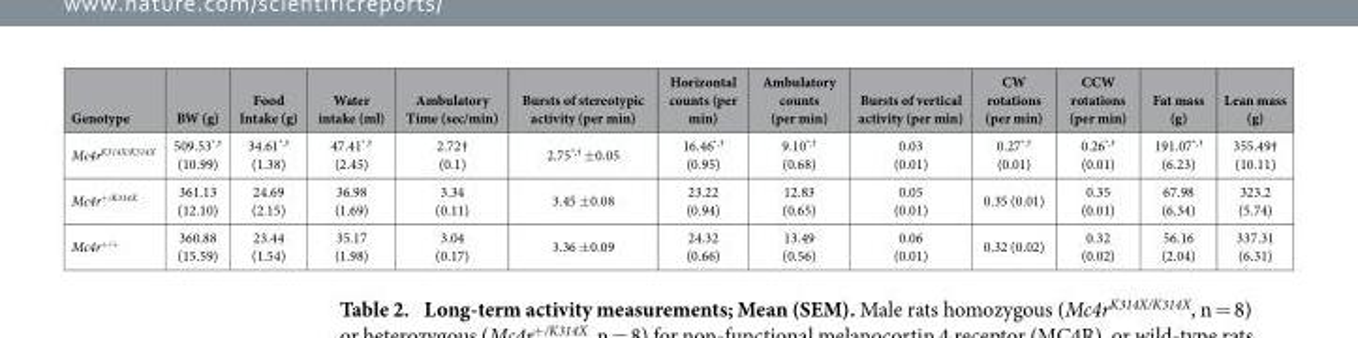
<table><thead><tr><td>Genotype</td><td>BW (g)</td><td>Food Intake (g)</td><td>Water intake (ml)</td><td>Ambulatory Time (sec/min)</td><td>Bursts of stereotypic activity (per min)</td><td>Horizontal counts (per min)</td><td>Ambulatory counts (per min)</td><td>Bursts of vertical activity (per min)</td><td>CW rotations (per min)</td><td>CCW rotations (per min)</td><td>Fat mass (g)</td><td>Lean mass (g)</td></tr></thead><tbody><tr><td>Mc4r<sup>K314X/K314X</sup></td><td>509.53<sup>*,†</sup> (10.99)</td><td>34.61<sup>*,†</sup> (1.38)</td><td>47.41<sup>*,†</sup> (2.45)</td><td>2.72† (0.1)</td><td>2.75<sup>*,†</sup> ± 0.05</td><td>16.46<sup>*,†</sup> (0.95)</td><td>9.10<sup>*,†</sup> (0.68)</td><td>0.03 (0.01)</td><td>0.27<sup>*,†</sup> (0.01)</td><td>0.26<sup>*,†</sup> (0.01)</td><td>191.07<sup>*,†</sup> (6.23)</td><td>355.49† (10.11)</td></tr><tr><td>Mc4r<sup>+/K314X</sup></td><td>361.13 (12.10)</td><td>24.69 (2.15)</td><td>36.98 (1.69)</td><td>3.34 (0.11)</td><td>3.45 ± 0.08</td><td>23.22 (0.94)</td><td>12.83 (0.65)</td><td>0.05 (0.01)</td><td>0.35 (0.01)</td><td>0.35 (0.01)</td><td>67.98 (6.34)</td><td>323.2 (5.74)</td></tr><tr><td>Mc4r<sup>+/+</sup></td><td>360.88 (15.59)</td><td>23.44 (1.54)</td><td>35.17 (1.98)</td><td>3.04 (0.17)</td><td>3.36 ± 0.09</td><td>24.32 (0.66)</td><td>13.49 (0.56)</td><td>0.06 (0.01)</td><td>0.32 (0.02)</td><td>0.32 (0.02)</td><td>56.16 (2.04)</td><td>337.31 (6.31)</td></tr></tbody></table>